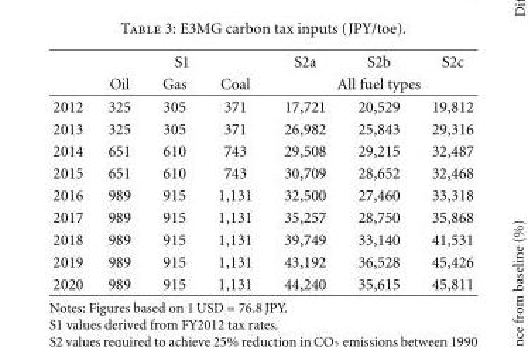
<table><thead><tr><td rowspan="2"></td><td colspan="3">S1</td><td>S2a</td><td>S2b</td><td>S2c</td></tr><tr><td>Oil</td><td>Gas</td><td>Coal</td><td colspan="3">All fuel types</td></tr></thead><tbody><tr><td>2012</td><td>325</td><td>305</td><td>371</td><td>17,721</td><td>20,529</td><td>19,812</td></tr><tr><td>2013</td><td>325</td><td>305</td><td>371</td><td>26,982</td><td>25,843</td><td>29,316</td></tr><tr><td>2014</td><td>651</td><td>610</td><td>743</td><td>29,508</td><td>29,215</td><td>32,487</td></tr><tr><td>2015</td><td>651</td><td>610</td><td>743</td><td>30,709</td><td>28,652</td><td>32,468</td></tr><tr><td>2016</td><td>989</td><td>915</td><td>1,131</td><td>32,500</td><td>27,460</td><td>33,318</td></tr><tr><td>2017</td><td>989</td><td>915</td><td>1,131</td><td>35,257</td><td>28,750</td><td>35,868</td></tr><tr><td>2018</td><td>989</td><td>915</td><td>1,131</td><td>39,749</td><td>33,140</td><td>41,531</td></tr><tr><td>2019</td><td>989</td><td>915</td><td>1,131</td><td>43,192</td><td>36,528</td><td>45,426</td></tr><tr><td>2020</td><td>989</td><td>915</td><td>1,131</td><td>44,240</td><td>35,615</td><td>45,811</td></tr></tbody></table>